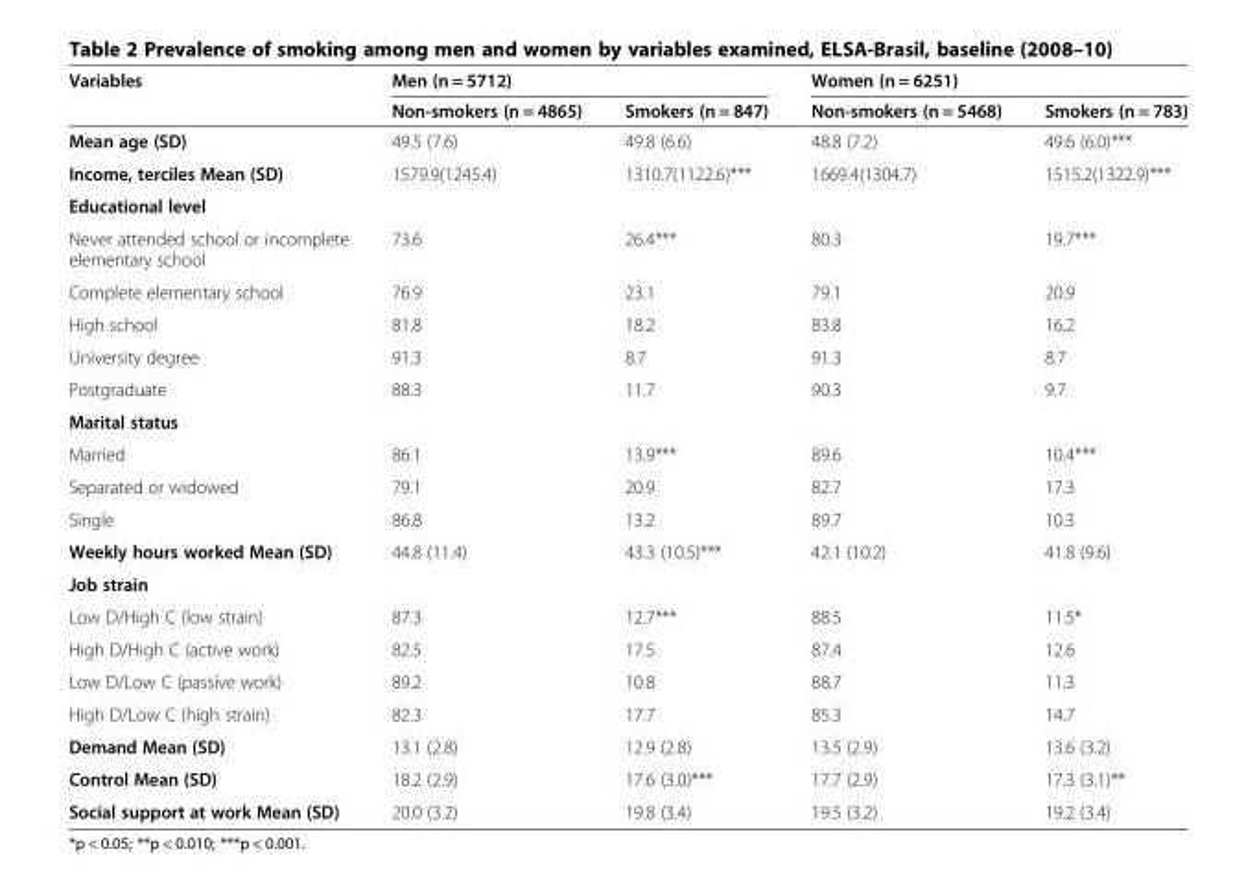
<table><thead><tr><td rowspan="2">Variables</td><td colspan="2">Men (n = 5712)</td><td colspan="2">Women (n = 6251)</td></tr><tr><td>Non-smokers (n = 4865)</td><td>Smokers (n = 847)</td><td>Non-smokers (n = 5468)</td><td>Smokers (n = 783)</td></tr></thead><tbody><tr><td>Mean age (SD)</td><td>49.5 (7.6)</td><td>49.8 (6.6)</td><td>48.8 (7.2)</td><td>49.6 (6.0)***</td></tr><tr><td>Income, terciles Mean (SD)</td><td>1579.9(1245.4)</td><td>1310.7(1122.6)***</td><td>1669.4(1304.7)</td><td>1515.2(1322.9)***</td></tr><tr><td colspan="5">Educational level</td></tr><tr><td>Never attended school or incomplete elementary school</td><td>73.6</td><td>26.4***</td><td>80.3</td><td>19.7***</td></tr><tr><td>Complete elementary school</td><td>76.9</td><td>23.1</td><td>79.1</td><td>20.9</td></tr><tr><td>High school</td><td>81.8</td><td>18.2</td><td>83.8</td><td>16.2</td></tr><tr><td>University degree</td><td>91.3</td><td>8.7</td><td>91.3</td><td>8.7</td></tr><tr><td>Postgraduate</td><td>88.3</td><td>11.7</td><td>90.3</td><td>9.7</td></tr><tr><td colspan="5">Marital status</td></tr><tr><td>Married</td><td>86.1</td><td>13.9***</td><td>89.6</td><td>10.4***</td></tr><tr><td>Separated or widowed</td><td>79.1</td><td>20.9</td><td>82.7</td><td>17.3</td></tr><tr><td>Single</td><td>86.8</td><td>13.2</td><td>89.7</td><td>10.3</td></tr><tr><td>Weekly hours worked Mean (SD)</td><td>44.8 (11.4)</td><td>43.3 (10.5)***</td><td>42.1 (10.2)</td><td>41.8 (9.6)</td></tr><tr><td colspan="5">Job strain</td></tr><tr><td>Low D/High C (low strain)</td><td>87.3</td><td>12.7***</td><td>88.5</td><td>11.5*</td></tr><tr><td>High D/High C (active work)</td><td>82.5</td><td>17.5</td><td>87.4</td><td>12.6</td></tr><tr><td>Low D/Low C (passive work)</td><td>89.2</td><td>10.8</td><td>88.7</td><td>11.3</td></tr><tr><td>High D/Low C (high strain)</td><td>82.3</td><td>17.7</td><td>85.3</td><td>14.7</td></tr><tr><td>Demand Mean (SD)</td><td>13.1 (2.8)</td><td>12.9 (2.8)</td><td>13.5 (2.9)</td><td>13.6 (3.2)</td></tr><tr><td>Control Mean (SD)</td><td>18.2 (2.9)</td><td>17.6 (3.0)***</td><td>17.7 (2.9)</td><td>17.3 (3.1)**</td></tr><tr><td>Social support at work Mean (SD)</td><td>20.0 (3.2)</td><td>19.8 (3.4)</td><td>19.5 (3.2)</td><td>19.2 (3.4)</td></tr></tbody></table>